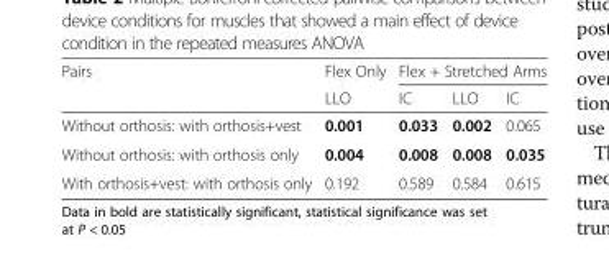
<table><thead><tr><td rowspan="2">Pairs</td><td rowspan="2">Flex Only LLO</td><td colspan="3">Flex + Stretched Arms</td></tr><tr><td>IC</td><td>LLO</td><td>IC</td></tr></thead><tbody><tr><td>Without orthosis: with orthosis+vest</td><td>0.001</td><td>0.033</td><td>0.002</td><td>0.065</td></tr><tr><td>Without orthosis: with orthosis only</td><td>0.004</td><td>0.008</td><td>0.008</td><td>0.035</td></tr><tr><td>With orthosis+vest: with orthosis only</td><td>0.192</td><td>0.589</td><td>0.584</td><td>0.615</td></tr></tbody></table>